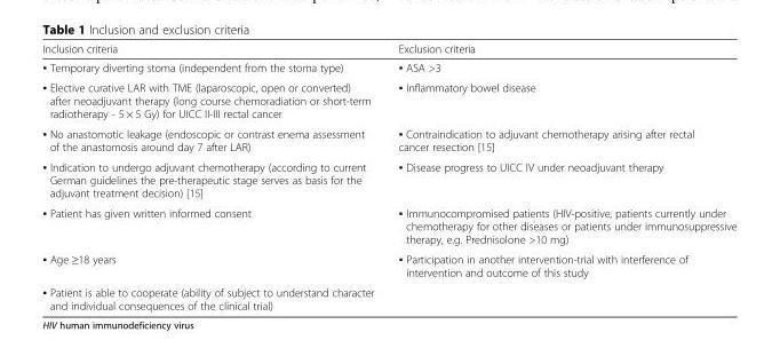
<table><thead><tr><td>Inclusion criteria</td><td>Exclusion criteria</td></tr></thead><tbody><tr><td>▪ Temporary diverting stoma (independent from the stoma type)</td><td>▪ ASA &gt;3</td></tr><tr><td>▪ Elective curative LAR with TME (laparoscopic, open or converted) after neoadjuvant therapy (long course chemoradiation or short-term radiotherapy - 5 × 5 Gy) for UICC II-III rectal cancer</td><td>▪ Inflammatory bowel disease</td></tr><tr><td>▪ No anastomotic leakage (endoscopic or contrast enema assessment of the anastomosis around day 7 after LAR)</td><td>▪ Contraindication to adjuvant chemotherapy arising after rectal cancer resection [15]</td></tr><tr><td>▪ Indication to undergo adjuvant chemotherapy (according to current German guidelines the pre-therapeutic stage serves as basis for the adjuvant treatment decision) [15]</td><td>▪ Disease progress to UICC IV under neoadjuvant therapy</td></tr><tr><td>▪ Patient has given written informed consent</td><td>▪ Immunocompromised patients (HIV-positive, patients currently under chemotherapy for other diseases or patients under immunosuppressive therapy, e.g. Prednisolone &gt;10 mg)</td></tr><tr><td>▪ Age ≥18 years</td><td>▪ Participation in another intervention-trial with interference of intervention and outcome of this study</td></tr><tr><td>▪ Patient is able to cooperate (ability of subject to understand character and individual consequences of the clinical trial)</td><td></td></tr></tbody></table>